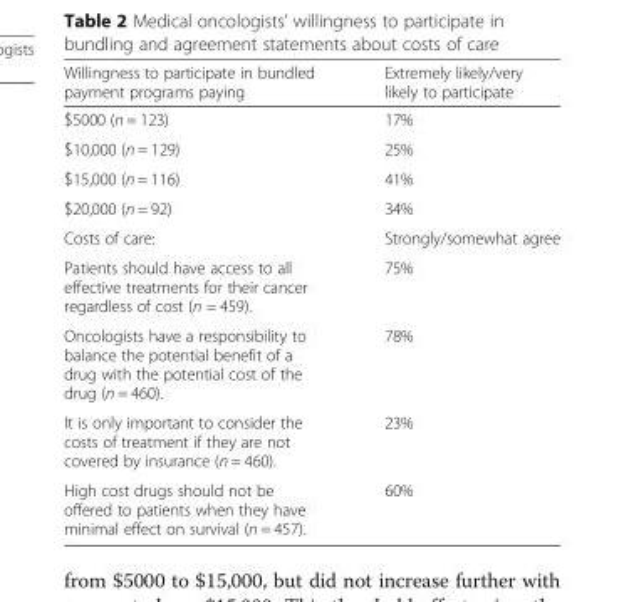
<table><thead><tr><td>Willingness to participate in bundled payment programs paying</td><td>Extremely likely/very likely to participate</td></tr></thead><tbody><tr><td>$5000 (n = 123)</td><td>17%</td></tr><tr><td>$10,000 (n = 129)</td><td>25%</td></tr><tr><td>$15,000 (n = 116)</td><td>41%</td></tr><tr><td>$20,000 (n = 92)</td><td>34%</td></tr><tr><td>Costs of care:</td><td>Strongly/somewhat agree</td></tr><tr><td>Patients should have access to all effective treatments for their cancer regardless of cost (n = 459).</td><td>75%</td></tr><tr><td>Oncologists have a responsibility to balance the potential benefit of a drug with the potential cost of the drug (n = 460).</td><td>78%</td></tr><tr><td>It is only important to consider the costs of treatment if they are not covered by insurance (n = 460).</td><td>23%</td></tr><tr><td>High cost drugs should not be offered to patients when they have minimal effect on survival (n = 457).</td><td>60%</td></tr></tbody></table>